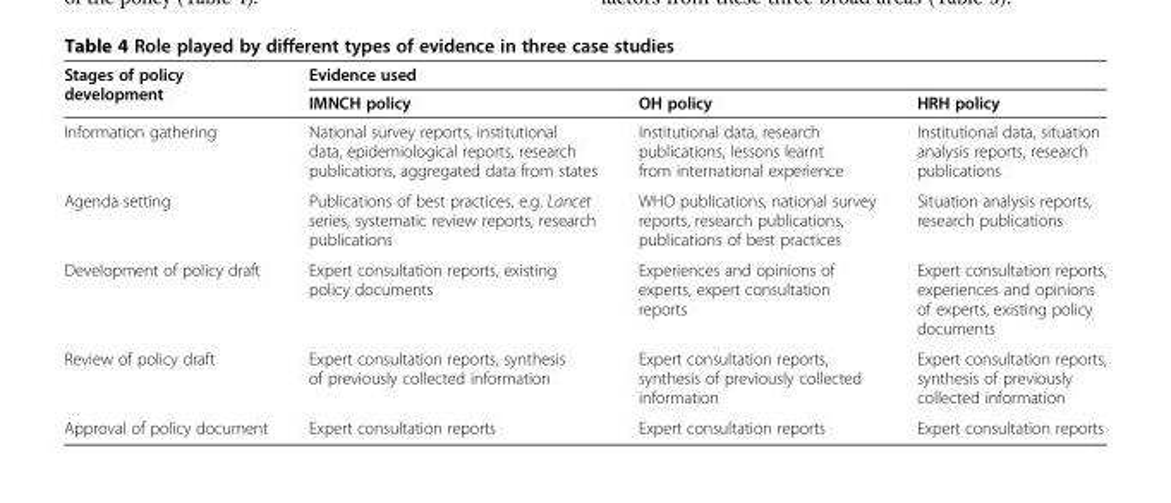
<table><thead><tr><td rowspan="2">Stages of policy development</td><td rowspan="2">Evidence used IMNCH policy</td><td rowspan="2">OH policy</td><td rowspan="2">HRH policy</td></tr><tr></tr></thead><tbody><tr><td>Information gathering</td><td>National survey reports, institutional data, epidemiological reports, research publications, aggregated data from states</td><td>Institutional data, research publications, lessons learnt from international experience</td><td>Institutional data, situation analysis reports, research publications</td></tr><tr><td>Agenda setting</td><td>Publications of best practices, e.g. Lancet series, systematic review reports, research publications</td><td>WHO publications, national survey reports, research publications, publications of best practices</td><td>Situation analysis reports, research publications</td></tr><tr><td>Development of policy draft</td><td>Expert consultation reports, existing policy documents</td><td>Experiences and opinions of experts, expert consultation reports</td><td>Expert consultation reports, experiences and opinions of experts, existing policy documents</td></tr><tr><td>Review of policy draft</td><td>Expert consultation reports, synthesis of previously collected information</td><td>Expert consultation reports, synthesis of previously collected information</td><td>Expert consultation reports, synthesis of previously collected information</td></tr><tr><td>Approval of policy document</td><td>Expert consultation reports</td><td>Expert consultation reports</td><td>Expert consultation reports</td></tr></tbody></table>